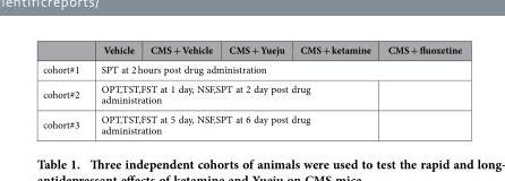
<table><thead><tr><td></td><td>Vehicle</td><td>CMS + Vehicle</td><td>CMS + Yueju</td><td>CMS + ketamine</td><td>CMS + fluoxetine</td></tr></thead><tbody><tr><td>cohort#1</td><td colspan="5">SPT at 2 hours post drug administration</td></tr><tr><td>cohort#2</td><td colspan="4">OPT,TST,FST at 1 day, NSF,SPT at 2 day post drug administration</td><td></td></tr><tr><td>cohort#3</td><td colspan="4">OPT,TST,FST at 5 day, NSF,SPT at 6 day post drug administration</td><td></td></tr></tbody></table>